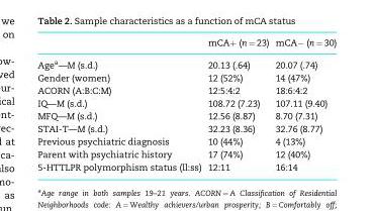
<table><thead><tr><td></td><td>mCA+ (n = 23)</td><td>mCA− (n = 30)</td></tr></thead><tbody><tr><td>Age<sup>a</sup>—M (s.d.)</td><td>20.13 (.64)</td><td>20.07 (.74)</td></tr><tr><td>Gender (women)</td><td>12 (52%)</td><td>14 (47%)</td></tr><tr><td>ACORN (A:B:C:M)</td><td>12:5:4:2</td><td>18:6:4:2</td></tr><tr><td>IQ—M (s.d.)</td><td>108.72 (7.23)</td><td>107.11 (9.40)</td></tr><tr><td>MFQ—M (s.d.)</td><td>12.56 (8.87)</td><td>8.70 (7.31)</td></tr><tr><td>STAI-T—M (s.d.)</td><td>32.23 (8.36)</td><td>32.76 (8.77)</td></tr><tr><td>Previous psychiatric diagnosis</td><td>10 (44%)</td><td>4 (13%)</td></tr><tr><td>Parent with psychiatric history</td><td>17 (74%)</td><td>12 (40%)</td></tr><tr><td>5-HTTLPR polymorphism status (ll:ss)</td><td>12:11</td><td>16:14</td></tr></tbody></table>